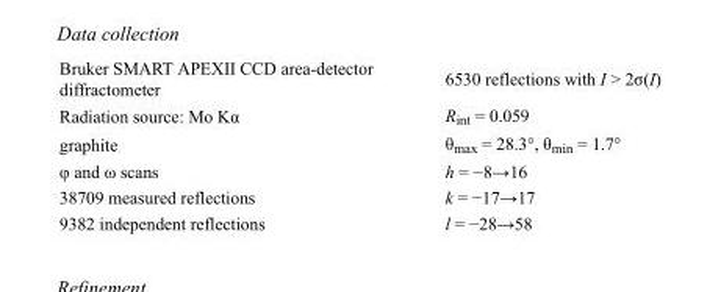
<table><tbody><tr><td>Bruker SMART APEXII CCD area-detector diffractometer</td><td>6530 reflections with I &gt; 2σ(I)</td></tr><tr><td>Radiation source: Mo Kα</td><td>R<sub>int</sub> = 0.059</td></tr><tr><td>graphite</td><td>θ<sub>max</sub> = 28.3°, θ<sub>min</sub> = 1.7°</td></tr><tr><td>φ and ω scans</td><td>h = −8→16</td></tr><tr><td>38709 measured reflections</td><td>k = −17→17</td></tr><tr><td>9382 independent reflections</td><td>l = −28→58</td></tr></tbody></table>